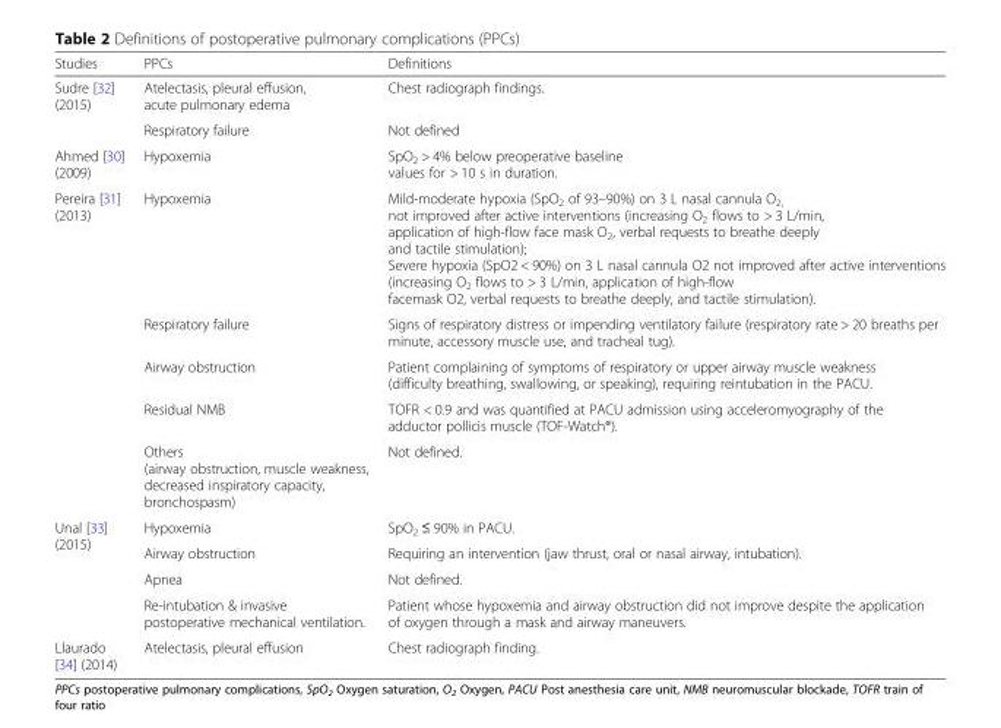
<table><thead><tr><td>Studies</td><td>PPCs</td><td>Definitions</td></tr></thead><tbody><tr><td rowspan="2">Sudre [32] (2015)</td><td>Atelectasis, pleural effusion, acute pulmonary edema</td><td>Chest radiograph findings.</td></tr><tr><td>Respiratory failure</td><td>Not defined</td></tr><tr><td>Ahmed [30] (2009)</td><td>Hypoxemia</td><td>SpO<sub>2</sub> &gt; 4% below preoperative baseline values for &gt; 10 s in duration.</td></tr><tr><td rowspan="5">Pereira [31] (2013)</td><td>Hypoxemia</td><td>Mild-moderate hypoxia (SpO<sub>2</sub> of 93–90%) on 3 L nasal cannula O<sub>2,</sub> not improved after active interventions (increasing O<sub>2</sub> flows to &gt; 3 L/min, application of high-flow face mask O<sub>2</sub>, verbal requests to breathe deeply and tactile stimulation); Severe hypoxia (SpO2 &lt; 90%) on 3 L nasal cannula O2 not improved after active interventions (increasing O<sub>2</sub> flows to &gt; 3 L/min, application of high-flow facemask O2, verbal requests to breathe deeply, and tactile stimulation).</td></tr><tr><td>Respiratory failure</td><td>Signs of respiratory distress or impending ventilatory failure (respiratory rate &gt; 20 breaths per minute, accessory muscle use, and tracheal tug).</td></tr><tr><td>Airway obstruction</td><td>Patient complaining of symptoms of respiratory or upper airway muscle weakness (difficulty breathing, swallowing, or speaking), requiring reintubation in the PACU.</td></tr><tr><td>Residual NMB</td><td>TOFR &lt; 0.9 and was quantified at PACU admission using acceleromyography of the adductor pollicis muscle (TOF-Watch®).</td></tr><tr><td>Others (airway obstruction, muscle weakness, decreased inspiratory capacity, bronchospasm)</td><td>Not defined.</td></tr><tr><td rowspan="4">Unal [33] (2015)</td><td>Hypoxemia</td><td>SpO<sub>2</sub> ≤ 90% in PACU.</td></tr><tr><td>Airway obstruction</td><td>Requiring an intervention (jaw thrust, oral or nasal airway, intubation).</td></tr><tr><td>Apnea</td><td>Not defined.</td></tr><tr><td>Re-intubation &amp; invasive postoperative mechanical ventilation.</td><td>Patient whose hypoxemia and airway obstruction did not improve despite the application of oxygen through a mask and airway maneuvers.</td></tr><tr><td>Llaurado [34] (2014)</td><td>Atelectasis, pleural effusion</td><td>Chest radiograph finding.</td></tr></tbody></table>